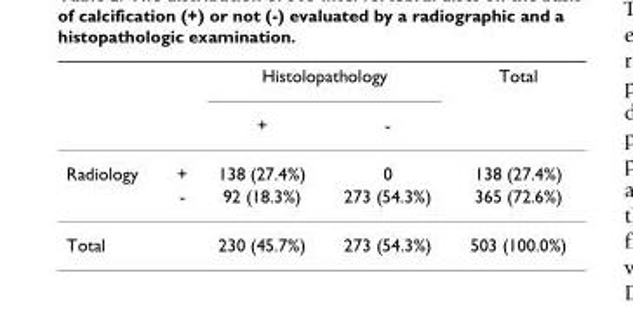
<table><thead><tr><td rowspan="2"></td><td rowspan="2"></td><td colspan="2">Histolopathology</td><td rowspan="2">Total</td></tr><tr><td>+</td><td>-</td></tr></thead><tbody><tr><td rowspan="2">Radiology</td><td>+</td><td>138 (27.4%)</td><td>0</td><td>138 (27.4%)</td></tr><tr><td>-</td><td>92 (18.3%)</td><td>273 (54.3%)</td><td>365 (72.6%)</td></tr><tr><td>Total</td><td></td><td>230 (45.7%)</td><td>273 (54.3%)</td><td>503 (100.0%)</td></tr></tbody></table>